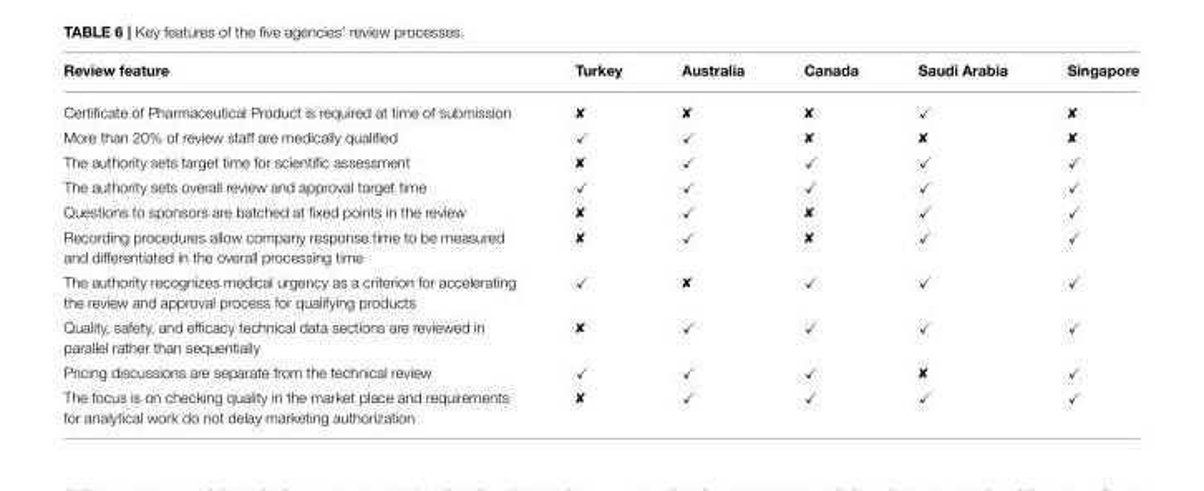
<table><thead><tr><td>Review feature</td><td>Turkey</td><td>Australia</td><td>Canada</td><td>Saudi Arabia</td><td>Singapore</td></tr></thead><tbody><tr><td>Certificate of Pharmaceutical Product is required at time of submission</td><td></td><td></td><td></td><td>✓</td><td></td></tr><tr><td>More than 20% of review staff are medically qualified</td><td>✓</td><td>✓</td><td></td><td></td><td></td></tr><tr><td>The authority sets target time for scientific assessment</td><td></td><td>✓</td><td>✓</td><td>✓</td><td>✓</td></tr><tr><td>The authority sets overall review and approval target time</td><td>✓</td><td>✓</td><td>✓</td><td>✓</td><td>✓</td></tr><tr><td>Questions to sponsors are batched at fixed points in the review</td><td></td><td>✓</td><td></td><td>✓</td><td>✓</td></tr><tr><td>Recording procedures allow company response time to be measured and differentiated in the overall processing time</td><td></td><td>✓</td><td></td><td>✓</td><td>✓</td></tr><tr><td>The authority recognizes medical urgency as a criterion for accelerating the review and approval process for qualifying products</td><td>✓</td><td></td><td>✓</td><td>✓</td><td>✓</td></tr><tr><td>Quality, safety, and efficacy technical data sections are reviewed in parallel rather than sequentially</td><td></td><td>✓</td><td>✓</td><td>✓</td><td>✓</td></tr><tr><td>Pricing discussions are separate from the technical review</td><td>✓</td><td>✓</td><td>✓</td><td></td><td>✓</td></tr><tr><td>The focus is on checking quality in the market place and requirements for analytical work do not delay marketing authorization</td><td></td><td>✓</td><td>✓</td><td>✓</td><td>✓</td></tr></tbody></table>